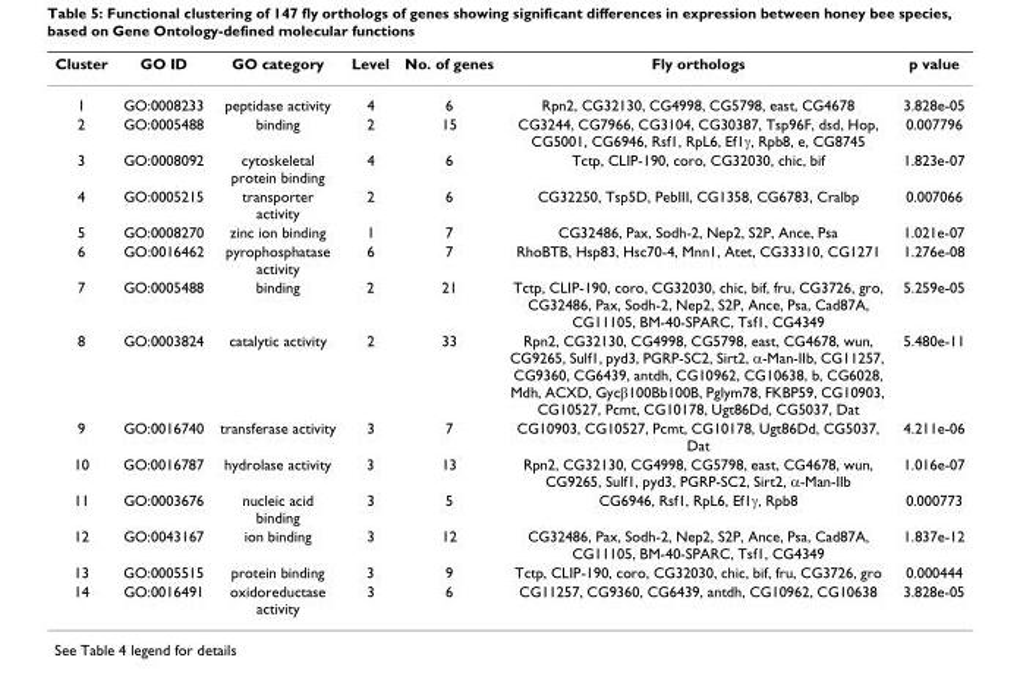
<table><thead><tr><td>Cluster</td><td>GO ID</td><td>GO category</td><td>Level</td><td>No. of genes</td><td>Fly orthologs</td><td>p value</td></tr></thead><tbody><tr><td>1</td><td>GO:0008233</td><td>peptidase activity</td><td>4</td><td>6</td><td>Rpn2, CG32130, CG4998, CG5798, east, CG4678</td><td>3.828e-05</td></tr><tr><td>2</td><td>GO:0005488</td><td>binding</td><td>2</td><td>15</td><td>CG3244, CG7966, CG3104, CG30387, Tsp96F, dsd, Hop, CG5001, CG6946, Rsf1, RpL6, Ef1γ, Rpb8, e, CG8745</td><td>0.007796</td></tr><tr><td>3</td><td>GO:0008092</td><td>cytoskeletal protein binding</td><td>4</td><td>6</td><td>Tctp, CLIP-190, coro, CG32030, chic, bif</td><td>1.823e-07</td></tr><tr><td>4</td><td>GO:0005215</td><td>transporter activity</td><td>2</td><td>6</td><td>CG32250, Tsp5D, PebIII, CG1358, CG6783, Cralbp</td><td>0.007066</td></tr><tr><td>5</td><td>GO:0008270</td><td>zinc ion binding</td><td>1</td><td>7</td><td>CG32486, Pax, Sodh-2, Nep2, S2P, Ance, Psa</td><td>1.021e-07</td></tr><tr><td>6</td><td>GO:0016462</td><td>pyrophosphatase activity</td><td>6</td><td>7</td><td>RhoBTB, Hsp83, Hsc70-4, Mnn1, Atet, CG33310, CG1271</td><td>1.276e-08</td></tr><tr><td>7</td><td>GO:0005488</td><td>binding</td><td>2</td><td>21</td><td>Tctp, CLIP-190, coro, CG32030, chic, bif, fru, CG3726, gro, CG32486, Pax, Sodh-2, Nep2, S2P, Ance, Psa, Cad87A, CG11105, BM-40-SPARC, Tsf1, CG4349</td><td>5.259e-05</td></tr><tr><td>8</td><td>GO:0003824</td><td>catalytic activity</td><td>2</td><td>33</td><td>Rpn2, CG32130, CG4998, CG5798, east, CG4678, wun, CG9265, Sulf1, pyd3, PGRP-SC2, Sirt2, α-Man-IIb, CG11257, CG9360, CG6439, antdh, CG10962, CG10638, b, CG6028, Mdh, ACXD, Gycβ100Bb100B, Pglym78, FKBP59, CG10903, CG10527, Pcmt, CG10178, Ugt86Dd, CG5037, Dat</td><td>5.480e-11</td></tr><tr><td>9</td><td>GO:0016740</td><td>transferase activity</td><td>3</td><td>7</td><td>CG10903, CG10527, Pcmt, CG10178, Ugt86Dd, CG5037, Dat</td><td>4.211e-06</td></tr><tr><td>10</td><td>GO:0016787</td><td>hydrolase activity</td><td>3</td><td>13</td><td>Rpn2, CG32130, CG4998, CG5798, east, CG4678, wun, CG9265, Sulf1, pyd3, PGRP-SC2, Sirt2, α-Man-IIb</td><td>1.016e-07</td></tr><tr><td>11</td><td>GO:0003676</td><td>nucleic acid binding</td><td>3</td><td>5</td><td>CG6946, Rsf1, RpL6, Ef1γ, Rpb8</td><td>0.000773</td></tr><tr><td>12</td><td>GO:0043167</td><td>ion binding</td><td>3</td><td>12</td><td>CG32486, Pax, Sodh-2, Nep2, S2P, Ance, Psa, Cad87A, CG11105, BM-40-SPARC, Tsf1, CG4349</td><td>1.837e-12</td></tr><tr><td>13</td><td>GO:0005515</td><td>protein binding</td><td>3</td><td>9</td><td>Tctp, CLIP-190, coro, CG32030, chic, bif, fru, CG3726, gro</td><td>0.000444</td></tr><tr><td>14</td><td>GO:0016491</td><td>oxidoreductase activity</td><td>3</td><td>6</td><td>CG11257, CG9360, CG6439, antdh, CG10962, CG10638</td><td>3.828e-05</td></tr></tbody></table>